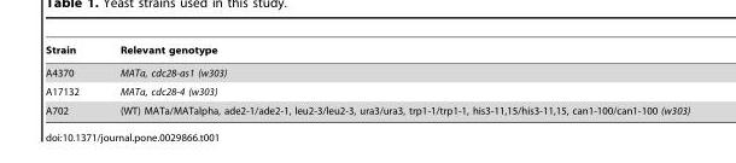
<table><thead><tr><td>Strain</td><td>Relevant genotype</td></tr></thead><tbody><tr><td>A4370</td><td>MATa, cdc28-as1 (w303)</td></tr><tr><td>A17132</td><td>MATa, cdc28-4 (w303)</td></tr><tr><td>A702</td><td>(WT) MATa/MATalpha, ade2-1/ade2-1, leu2-3/leu2-3, ura3/ura3, trp1-1/trp1-1, his3-11,15/his3-11,15, can1-100/can1-100 (w303)</td></tr></tbody></table>